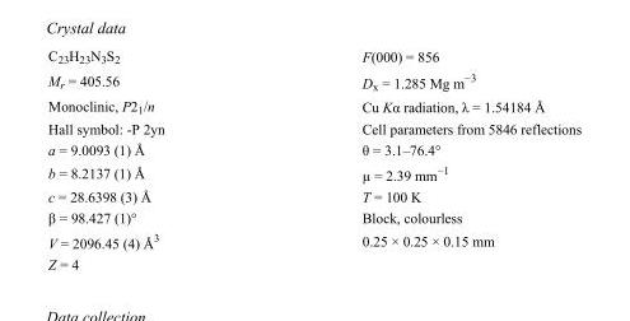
<table><tbody><tr><td>C<sub>23</sub>H<sub>23</sub>N<sub>3</sub>S<sub>2</sub></td><td>F(000) = 856</td></tr><tr><td>M<sub>r</sub> = 405.56</td><td>D<sub>x</sub> = 1.285 Mg m<sup>−3</sup></td></tr><tr><td>Monoclinic, P2<sub>1</sub>/n</td><td>Cu Kα radiation, λ = 1.54184 Å</td></tr><tr><td>Hall symbol: -P 2yn</td><td>Cell parameters from 5846 reflections</td></tr><tr><td>a = 9.0093 (1) Å</td><td>θ = 3.1–76.4°</td></tr><tr><td>b = 8.2137 (1) Å</td><td>µ = 2.39 mm<sup>−1</sup></td></tr><tr><td>c = 28.6398 (3) Å</td><td>T = 100 K</td></tr><tr><td>β = 98.427 (1)°</td><td>Block, colourless</td></tr><tr><td>V = 2096.45 (4) Å<sup>3</sup></td><td>0.25 × 0.25 × 0.15 mm</td></tr><tr><td>Z = 4</td><td></td></tr></tbody></table>